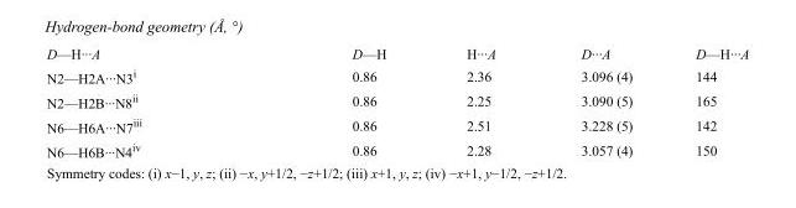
<table><tbody><tr><td>D—H···A</td><td>D—H</td><td>H···A</td><td>D···A</td><td>D—H···A</td></tr><tr><td>N2—H2A···N3<sup>i</sup></td><td>0.86</td><td>2.36</td><td>3.096 (4)</td><td>144</td></tr><tr><td>N2—H2B···N8<sup>ii</sup></td><td>0.86</td><td>2.25</td><td>3.090 (5)</td><td>165</td></tr><tr><td>N6—H6A···N7<sup>iii</sup></td><td>0.86</td><td>2.51</td><td>3.228 (5)</td><td>142</td></tr><tr><td>N6—H6B···N4<sup>iv</sup></td><td>0.86</td><td>2.28</td><td>3.057 (4)</td><td>150</td></tr></tbody></table>